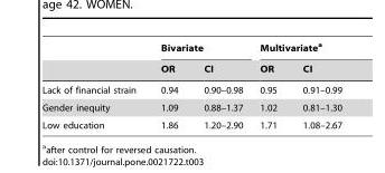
<table><thead><tr><td rowspan="2"></td><td colspan="2">Bivariate</td><td colspan="2">Multivariate<sup>a</sup></td></tr><tr><td>OR</td><td>CI</td><td>OR</td><td>CI</td></tr></thead><tbody><tr><td>Lack of financial strain</td><td>0.94</td><td>0.90–0.98</td><td>0.95</td><td>0.91–0.99</td></tr><tr><td>Gender inequity</td><td>1.09</td><td>0.88–1.37</td><td>1.02</td><td>0.81–1.30</td></tr><tr><td>Low education</td><td>1.86</td><td>1.20–2.90</td><td>1.71</td><td>1.08–2.67</td></tr></tbody></table>